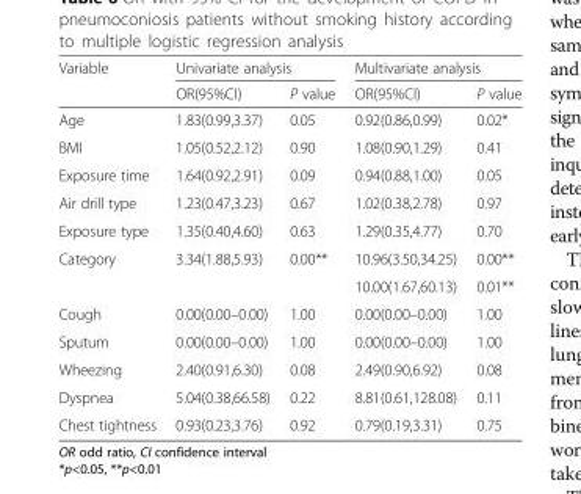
<table><thead><tr><td rowspan="2">Variable</td><td colspan="2">Univariate analysis</td><td colspan="2">Multivariate analysis</td></tr><tr><td>OR(95%CI)</td><td>P value</td><td>OR(95%CI)</td><td>P value</td></tr></thead><tbody><tr><td>Age</td><td>1.83(0.99,3.37)</td><td>0.05</td><td>0.92(0.86,0.99)</td><td>0.02*</td></tr><tr><td>BMI</td><td>1.05(0.52,2.12)</td><td>0.90</td><td>1.08(0.90,1.29)</td><td>0.41</td></tr><tr><td>Exposure time</td><td>1.64(0.92,2.91)</td><td>0.09</td><td>0.94(0.88,1.00)</td><td>0.05</td></tr><tr><td>Air drill type</td><td>1.23(0.47,3.23)</td><td>0.67</td><td>1.02(0.38,2.78)</td><td>0.97</td></tr><tr><td>Exposure type</td><td>1.35(0.40,4.60)</td><td>0.63</td><td>1.29(0.35,4.77)</td><td>0.70</td></tr><tr><td rowspan="2">Category</td><td>3.34(1.88,5.93)</td><td>0.00**</td><td>10.96(3.50,34.25)</td><td>0.00**</td></tr><tr><td></td><td></td><td>10.00(1.67,60.13)</td><td>0.01**</td></tr><tr><td>Cough</td><td>0.00(0.00–0.00)</td><td>1.00</td><td>0.00(0.00–0.00)</td><td>1.00</td></tr><tr><td>Sputum</td><td>0.00(0.00–0.00)</td><td>1.00</td><td>0.00(0.00–0.00)</td><td>1.00</td></tr><tr><td>Wheezing</td><td>2.40(0.91,6.30)</td><td>0.08</td><td>2.49(0.90,6.92)</td><td>0.08</td></tr><tr><td>Dyspnea</td><td>5.04(0.38,66.58)</td><td>0.22</td><td>8.81(0.61,128.08)</td><td>0.11</td></tr><tr><td>Chest tightness</td><td>0.93(0.23,3.76)</td><td>0.92</td><td>0.79(0.19,3.31)</td><td>0.75</td></tr></tbody></table>